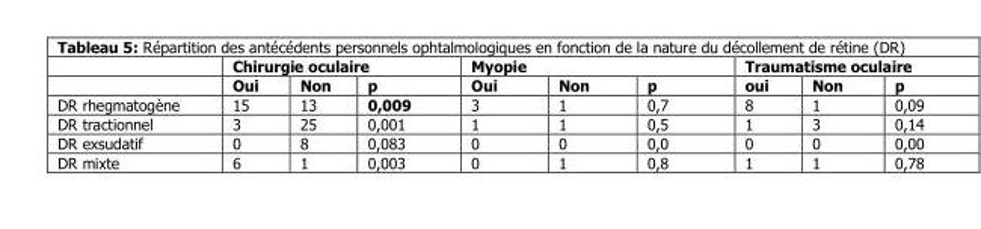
<table><thead><tr><td rowspan="2"></td><td colspan="3">Chirurgie oculaire</td><td colspan="3">Myopie</td><td colspan="3">Traumatisme oculaire</td></tr><tr><td>Oui</td><td>Non</td><td>p</td><td>Oui</td><td>Non</td><td>p</td><td>oui</td><td>Non</td><td>p</td></tr></thead><tbody><tr><td>DR rhegmatogène</td><td>15</td><td>13</td><td>0,009</td><td>3</td><td>1</td><td>0,7</td><td>8</td><td>1</td><td>0,09</td></tr><tr><td>DR tractionnel</td><td>3</td><td>25</td><td>0,001</td><td>1</td><td>1</td><td>0,5</td><td>1</td><td>3</td><td>0,14</td></tr><tr><td>DR exsudatif</td><td>0</td><td>8</td><td>0,083</td><td>0</td><td>0</td><td>0,0</td><td>0</td><td>0</td><td>0,00</td></tr><tr><td>DR mixte</td><td>6</td><td>1</td><td>0,003</td><td>0</td><td>1</td><td>0,8</td><td>1</td><td>1</td><td>0,78</td></tr></tbody></table>